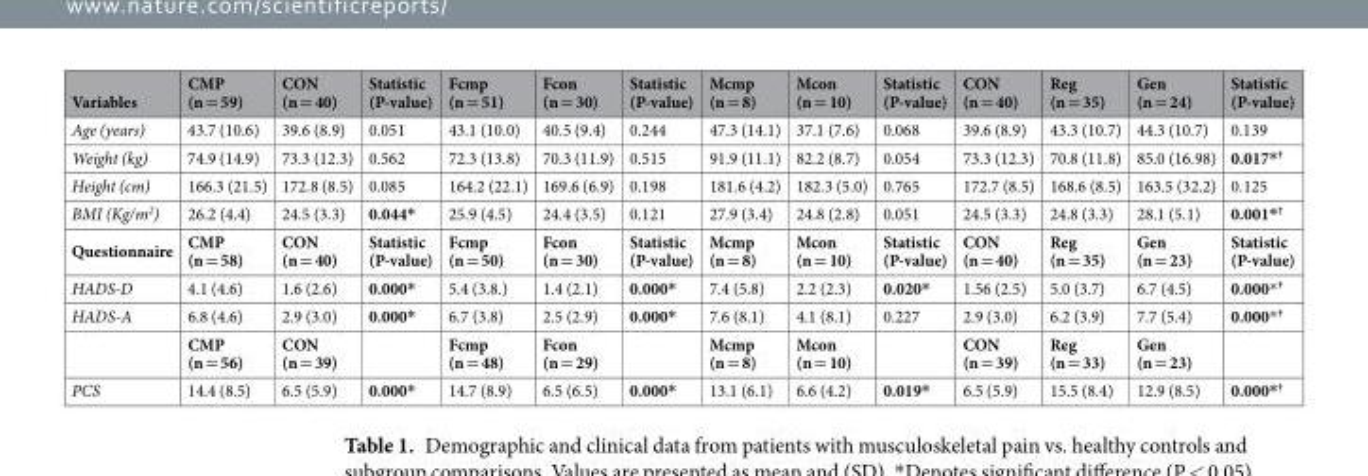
<table><thead><tr><td>Variables</td><td>CMP (n = 59)</td><td>CON (n = 40)</td><td>Statistic (P-value)</td><td>Fcmp (n = 51)</td><td>Fcon (n = 30)</td><td>Statistic (P-value)</td><td>Mcmp (n = 8)</td><td>Mcon (n = 10)</td><td>Statistic (P-value)</td><td>CON (n = 40)</td><td>Reg (n = 35)</td><td>Gen (n = 24)</td><td>Statistic (P-value)</td></tr></thead><tbody><tr><td>Age (years)</td><td>43.7 (10.6)</td><td>39.6 (8.9)</td><td>0.051</td><td>43.1 (10.0)</td><td>40.5 (9.4)</td><td>0.244</td><td>47.3 (14.1)</td><td>37.1 (7.6)</td><td>0.068</td><td>39.6 (8.9)</td><td>43.3 (10.7)</td><td>44.3 (10.7)</td><td>0.139</td></tr><tr><td>Weight (kg)</td><td>74.9 (14.9)</td><td>73.3 (12.3)</td><td>0.562</td><td>72.3 (13.8)</td><td>70.3 (11.9)</td><td>0.515</td><td>91.9 (11.1)</td><td>82.2 (8.7)</td><td>0.054</td><td>73.3 (12.3)</td><td>70.8 (11.8)</td><td>85.0 (16.98)</td><td>0.017*<sup>†</sup></td></tr><tr><td>Height (cm)</td><td>166.3 (21.5)</td><td>172.8 (8.5)</td><td>0.085</td><td>164.2 (22.1)</td><td>169.6 (6.9)</td><td>0.198</td><td>181.6 (4.2)</td><td>182.3 (5.0)</td><td>0.765</td><td>172.7 (8.5)</td><td>168.6 (8.5)</td><td>163.5 (32.2)</td><td>0.125</td></tr><tr><td>BMI (Kg/m<sup>2</sup>)</td><td>26.2 (4.4)</td><td>24.5 (3.3)</td><td>0.044*</td><td>25.9 (4.5)</td><td>24.4 (3.5)</td><td>0.121</td><td>27.9 (3.4)</td><td>24.8 (2.8)</td><td>0.051</td><td>24.5 (3.3)</td><td>24.8 (3.3)</td><td>28.1 (5.1)</td><td>0.001*<sup>†</sup></td></tr><tr><td>Questionnaire</td><td>CMP (n = 58)</td><td>CON (n = 40)</td><td>Statistic (P-value)</td><td>Fcmp (n = 50)</td><td>Fcon (n = 30)</td><td>Statistic (P-value)</td><td>Mcmp (n = 8)</td><td>Mcon (n = 10)</td><td>Statistic (P-value)</td><td>CON (n = 40)</td><td>Reg (n = 35)</td><td>Gen (n = 23)</td><td>Statistic (P-value)</td></tr><tr><td>HADS-D</td><td>4.1 (4.6)</td><td>1.6 (2.6)</td><td>0.000*</td><td>5.4 (3.8.)</td><td>1.4 (2.1)</td><td>0.000*</td><td>7.4 (5.8)</td><td>2.2 (2.3)</td><td>0.020*</td><td>1.56 (2.5)</td><td>5.0 (3.7)</td><td>6.7 (4.5)</td><td>0.000*<sup>†</sup></td></tr><tr><td rowspan="2">HADS-A</td><td>6.8 (4.6)</td><td>2.9 (3.0)</td><td>0.000*</td><td>6.7 (3.8)</td><td>2.5 (2.9)</td><td>0.000*</td><td>7.6 (8.1)</td><td>4.1 (8.1)</td><td>0.227</td><td>2.9 (3.0)</td><td>6.2 (3.9)</td><td>7.7 (5.4)</td><td>0.000*<sup>†</sup></td></tr><tr><td>CMP (n = 56)</td><td>CON (n = 39)</td><td></td><td>Fcmp (n = 48)</td><td>Fcon (n = 29)</td><td></td><td>Mcmp (n = 8)</td><td>Mcon (n = 10)</td><td></td><td>CON (n = 39)</td><td>Reg (n = 33)</td><td>Gen (n = 23)</td><td></td></tr><tr><td>PCS</td><td>14.4 (8.5)</td><td>6.5 (5.9)</td><td>0.000*</td><td>14.7 (8.9)</td><td>6.5 (6.5)</td><td>0.000*</td><td>13.1 (6.1)</td><td>6.6 (4.2)</td><td>0.019*</td><td>6.5 (5.9)</td><td>15.5 (8.4)</td><td>12.9 (8.5)</td><td>0.000*<sup>†</sup></td></tr></tbody></table>